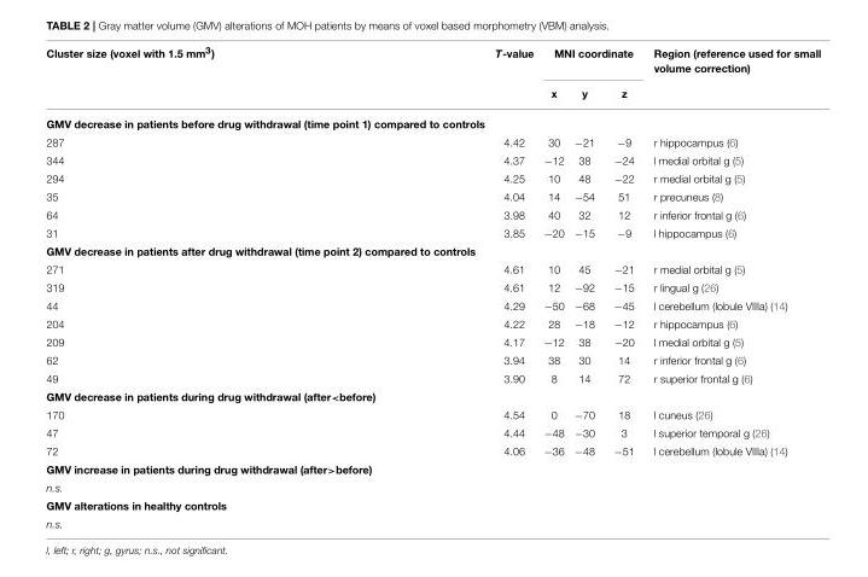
<table><thead><tr><td rowspan="2">Cluster size (voxel with 1.5 mm<sup>3</sup>)</td><td rowspan="2">T-value</td><td colspan="3">MNI coordinate</td><td rowspan="2">Region (reference used for small volume correction)</td></tr><tr><td>x</td><td>y</td><td>z</td></tr></thead><tbody><tr><td colspan="6">GMV decrease in patients before drug withdrawal (time point 1) compared to controls</td></tr><tr><td>287</td><td>4.42</td><td>30</td><td>−21</td><td>−9</td><td>r hippocampus (6)</td></tr><tr><td>344</td><td>4.37</td><td>−12</td><td>38</td><td>−24</td><td>l medial orbital g (5)</td></tr><tr><td>294</td><td>4.25</td><td>10</td><td>48</td><td>−22</td><td>r medial orbital g (5)</td></tr><tr><td>35</td><td>4.04</td><td>14</td><td>−54</td><td>51</td><td>r precuneus (8)</td></tr><tr><td>64</td><td>3.98</td><td>40</td><td>32</td><td>12</td><td>r inferior frontal g (6)</td></tr><tr><td>31</td><td>3.85</td><td>−20</td><td>−15</td><td>−9</td><td>l hippocampus (6)</td></tr><tr><td colspan="6">GMV decrease in patients after drug withdrawal (time point 2) compared to controls</td></tr><tr><td>271</td><td>4.61</td><td>10</td><td>45</td><td>−21</td><td>r medial orbital g (5)</td></tr><tr><td>319</td><td>4.61</td><td>12</td><td>−92</td><td>−15</td><td>r lingual g (26)</td></tr><tr><td>44</td><td>4.29</td><td>−50</td><td>−68</td><td>−45</td><td>l cerebellum (lobule VIIIa) (14)</td></tr><tr><td>204</td><td>4.22</td><td>28</td><td>−18</td><td>−12</td><td>r hippocampus (6)</td></tr><tr><td>209</td><td>4.17</td><td>−12</td><td>38</td><td>−20</td><td>l medial orbital g (5)</td></tr><tr><td>62</td><td>3.94</td><td>38</td><td>30</td><td>14</td><td>r inferior frontal g (6)</td></tr><tr><td>49</td><td>3.90</td><td>8</td><td>14</td><td>72</td><td>r superior frontal g (6)</td></tr><tr><td colspan="6">GMV decrease in patients during drug withdrawal (after&lt;before)</td></tr><tr><td>170</td><td>4.54</td><td>0</td><td>−70</td><td>18</td><td>l cuneus (26)</td></tr><tr><td>47</td><td>4.44</td><td>−48</td><td>−30</td><td>3</td><td>l superior temporal g (26)</td></tr><tr><td>72</td><td>4.06</td><td>−36</td><td>−48</td><td>−51</td><td>l cerebellum (lobule VIIIa) (14)</td></tr><tr><td colspan="6">GMV increase in patients during drug withdrawal (after&gt;before)</td></tr><tr><td colspan="6">n.s.</td></tr><tr><td colspan="6">GMV alterations in healthy controls</td></tr><tr><td>n.s.</td><td></td><td></td><td></td><td></td><td></td></tr></tbody></table>